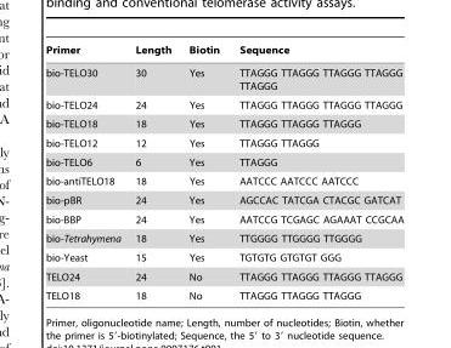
<table><thead><tr><td>Primer</td><td>Length</td><td>Biotin</td><td>Sequence</td></tr></thead><tbody><tr><td>bio-TELO30</td><td>30</td><td>Yes</td><td>TTAGGG TTAGGG TTAGGG TTAGGG TTAGGG</td></tr><tr><td>bio-TELO24</td><td>24</td><td>Yes</td><td>TTAGGG TTAGGG TTAGGG TTAGGG</td></tr><tr><td>bio-TELO18</td><td>18</td><td>Yes</td><td>TTAGGG TTAGGG TTAGGG</td></tr><tr><td>bio-TELO12</td><td>12</td><td>Yes</td><td>TTAGGG TTAGGG</td></tr><tr><td>bio-TELO6</td><td>6</td><td>Yes</td><td>TTAGGG</td></tr><tr><td>bio-antiTELO18</td><td>18</td><td>Yes</td><td>AATCCC AATCCC AATCCC</td></tr><tr><td>bio-pBR</td><td>24</td><td>Yes</td><td>AGCCAC TATCGA CTACGC GATCAT</td></tr><tr><td>bio-BBP</td><td>24</td><td>Yes</td><td>AATCCG TCGAGC AGAAAT CCGCAA</td></tr><tr><td>bio-Tetrahymena</td><td>18</td><td>Yes</td><td>TTGGGG TTGGGG TTGGGG</td></tr><tr><td>bio-Yeast</td><td>15</td><td>Yes</td><td>TGTGTG GTGTGT GGG</td></tr><tr><td>TELO24</td><td>24</td><td>No</td><td>TTAGGG TTAGGG TTAGGG TTAGGG</td></tr><tr><td>TELO18</td><td>18</td><td>No</td><td>TTAGGG TTAGGG TTAGGG</td></tr></tbody></table>